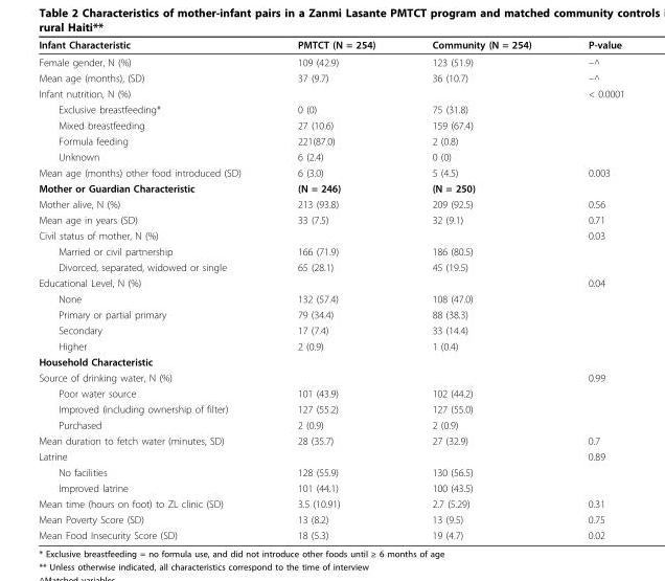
<table><thead><tr><td>Infant Characteristic</td><td>PMTCT (N = 254)</td><td>Community (N = 254)</td><td>P-value</td></tr></thead><tbody><tr><td>Female gender, N (%)</td><td>109 (42.9)</td><td>123 (51.9)</td><td>–^</td></tr><tr><td>Mean age (months), (SD)</td><td>37 (9.7)</td><td>36 (10.7)</td><td>–^</td></tr><tr><td>Infant nutrition, N (%)</td><td></td><td></td><td>&lt; 0.0001</td></tr><tr><td>Exclusive breastfeeding*</td><td>0 (0)</td><td>75 (31.8)</td><td></td></tr><tr><td>Mixed breastfeeding</td><td>27 (10.6)</td><td>159 (67.4)</td><td></td></tr><tr><td>Formula feeding</td><td>221(87.0)</td><td>2 (0.8)</td><td></td></tr><tr><td>Unknown</td><td>6 (2.4)</td><td>0 (0)</td><td></td></tr><tr><td>Mean age (months) other food introduced (SD)</td><td>6 (3.0)</td><td>5 (4.5)</td><td>0.003</td></tr><tr><td>Mother or Guardian Characteristic</td><td>(N = 246)</td><td>(N = 250)</td><td></td></tr><tr><td>Mother alive, N (%)</td><td>213 (93.8)</td><td>209 (92.5)</td><td>0.56</td></tr><tr><td>Mean age in years (SD)</td><td>33 (7.5)</td><td>32 (9.1)</td><td>0.71</td></tr><tr><td>Civil status of mother, N (%)</td><td></td><td></td><td>0.03</td></tr><tr><td>Married or civil partnership</td><td>166 (71.9)</td><td>186 (80.5)</td><td></td></tr><tr><td>Divorced, separated, widowed or single</td><td>65 (28.1)</td><td>45 (19.5)</td><td></td></tr><tr><td>Educational Level, N (%)</td><td></td><td></td><td>0.04</td></tr><tr><td>None</td><td>132 (57.4)</td><td>108 (47.0)</td><td></td></tr><tr><td>Primary or partial primary</td><td>79 (34.4)</td><td>88 (38.3)</td><td></td></tr><tr><td>Secondary</td><td>17 (7.4)</td><td>33 (14.4)</td><td></td></tr><tr><td>Higher</td><td>2 (0.9)</td><td>1 (0.4)</td><td></td></tr><tr><td colspan="4">Household Characteristic</td></tr><tr><td>Source of drinking water, N (%)</td><td></td><td></td><td>0.99</td></tr><tr><td>Poor water source</td><td>101 (43.9)</td><td>102 (44.2)</td><td></td></tr><tr><td>Improved (including ownership of filter)</td><td>127 (55.2)</td><td>127 (55.0)</td><td></td></tr><tr><td>Purchased</td><td>2 (0.9)</td><td>2 (0.9)</td><td></td></tr><tr><td>Mean duration to fetch water (minutes, SD)</td><td>28 (35.7)</td><td>27 (32.9)</td><td>0.7</td></tr><tr><td>Latrine</td><td></td><td></td><td>0.89</td></tr><tr><td>No facilities</td><td>128 (55.9)</td><td>130 (56.5)</td><td></td></tr><tr><td>Improved latrine</td><td>101 (44.1)</td><td>100 (43.5)</td><td></td></tr><tr><td>Mean time (hours on foot) to ZL clinic (SD)</td><td>3.5 (10.91)</td><td>2.7 (5.29)</td><td>0.31</td></tr><tr><td>Mean Poverty Score (SD)</td><td>13 (8.2)</td><td>13 (9.5)</td><td>0.75</td></tr><tr><td>Mean Food Insecurity Score (SD)</td><td>18 (5.3)</td><td>19 (4.7)</td><td>0.02</td></tr></tbody></table>